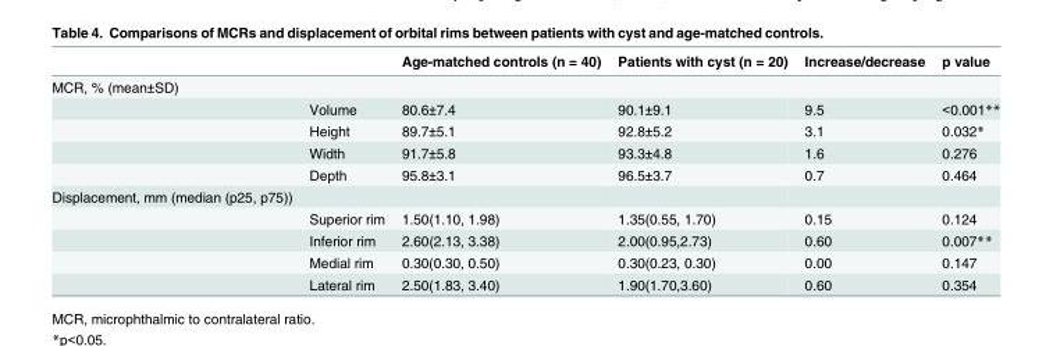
<table><thead><tr><td></td><td></td><td>Age-matched controls (n = 40)</td><td>Patients with cyst (n = 20)</td><td>Increase/decrease</td><td>p value</td></tr></thead><tbody><tr><td colspan="6">MCR, % (mean±SD)</td></tr><tr><td></td><td>Volume</td><td>80.6±7.4</td><td>90.1±9.1</td><td>9.5</td><td>&lt;0.001**</td></tr><tr><td></td><td>Height</td><td>89.7±5.1</td><td>92.8±5.2</td><td>3.1</td><td>0.032*</td></tr><tr><td></td><td>Width</td><td>91.7±5.8</td><td>93.3±4.8</td><td>1.6</td><td>0.276</td></tr><tr><td></td><td>Depth</td><td>95.8±3.1</td><td>96.5±3.7</td><td>0.7</td><td>0.464</td></tr><tr><td colspan="6">Displacement, mm (median (p25, p75))</td></tr><tr><td></td><td>Superior rim</td><td>1.50(1.10, 1.98)</td><td>1.35(0.55, 1.70)</td><td>0.15</td><td>0.124</td></tr><tr><td></td><td>Inferior rim</td><td>2.60(2.13, 3.38)</td><td>2.00(0.95,2.73)</td><td>0.60</td><td>0.007**</td></tr><tr><td></td><td>Medial rim</td><td>0.30(0.30, 0.50)</td><td>0.30(0.23, 0.30)</td><td>0.00</td><td>0.147</td></tr><tr><td></td><td>Lateral rim</td><td>2.50(1.83, 3.40)</td><td>1.90(1.70,3.60)</td><td>0.60</td><td>0.354</td></tr></tbody></table>